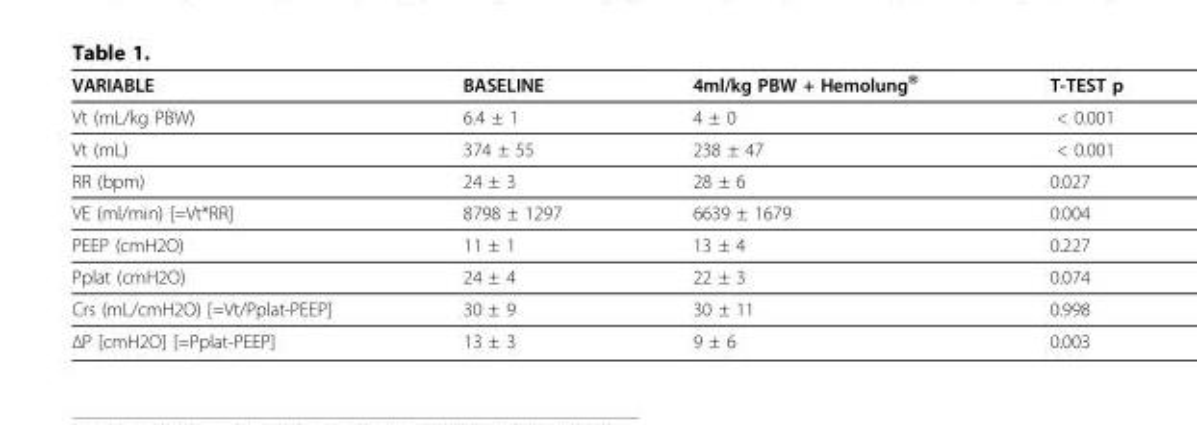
<table><thead><tr><td>VARIABLE</td><td>BASELINE</td><td>4ml/kg PBW + Hemolung®</td><td>T-TEST p</td></tr></thead><tbody><tr><td>Vt (mL/kg PBW)</td><td>6.4 ± 1</td><td>4 ± 0</td><td>&lt; 0.001</td></tr><tr><td>Vt (mL)</td><td>374 ± 55</td><td>238 ± 47</td><td>&lt; 0.001</td></tr><tr><td>RR (bpm)</td><td>24 ± 3</td><td>28 ± 6</td><td>0.027</td></tr><tr><td>VE (ml/min) [=Vt*RR]</td><td>8798 ± 1297</td><td>6639 ± 1679</td><td>0.004</td></tr><tr><td>PEEP (cmH2O)</td><td>11 ± 1</td><td>13 ± 4</td><td>0.227</td></tr><tr><td>Pplat (cmH2O)</td><td>24 ± 4</td><td>22 ± 3</td><td>0.074</td></tr><tr><td>Crs (mL/cmH2O) [=Vt/Pplat-PEEP]</td><td>30 ± 9</td><td>30 ± 11</td><td>0.998</td></tr><tr><td>ΔP [cmH2O] [=Pplat-PEEP]</td><td>13 ± 3</td><td>9 ± 6</td><td>0.003</td></tr></tbody></table>